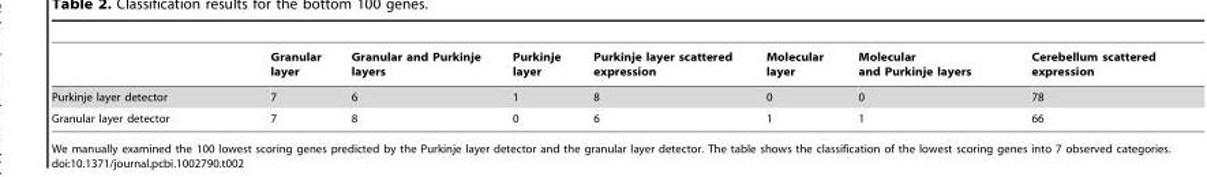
<table><thead><tr><td></td><td>Granular layer</td><td>Granular and Purkinje layers</td><td>Purkinje layer</td><td>Purkinje layer scattered expression</td><td>Molecular layer</td><td>Molecular and Purkinje layers</td><td>Cerebellum scattered expression</td></tr></thead><tbody><tr><td>Purkinje layer detector</td><td>7</td><td>6</td><td>1</td><td>8</td><td>0</td><td>0</td><td>78</td></tr><tr><td>Granular layer detector</td><td>7</td><td>8</td><td>0</td><td>6</td><td>1</td><td>1</td><td>66</td></tr></tbody></table>